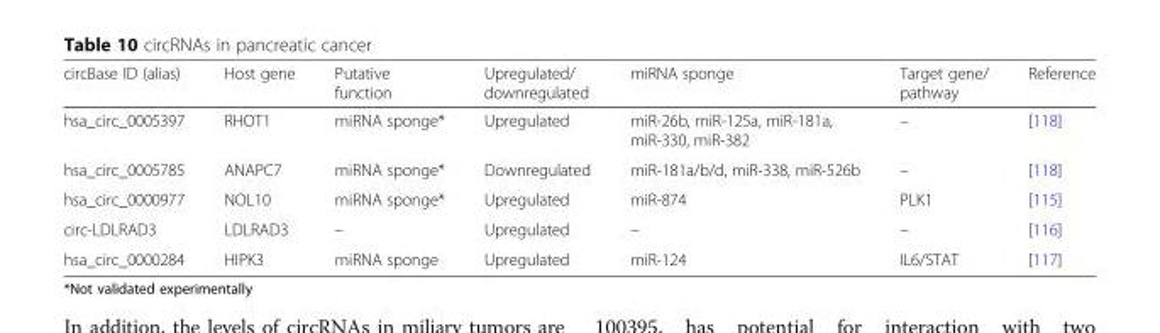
<table><thead><tr><td>circBase ID (alias)</td><td>Host gene</td><td>Putative function</td><td>Upregulated/ downregulated</td><td>miRNA sponge</td><td>Target gene/ pathway</td><td>Reference</td></tr></thead><tbody><tr><td>hsa_circ_0005397</td><td>RHOT1</td><td>miRNA sponge*</td><td>Upregulated</td><td>miR-26b, miR-125a, miR-181a, miR-330, miR-382</td><td>–</td><td>[118]</td></tr><tr><td>hsa_circ_0005785</td><td>ANAPC7</td><td>miRNA sponge*</td><td>Downregulated</td><td>miR-181a/b/d, miR-338, miR-526b</td><td>–</td><td>[118]</td></tr><tr><td>hsa_circ_0000977</td><td>NOL10</td><td>miRNA sponge*</td><td>Upregulated</td><td>miR-874</td><td>PLK1</td><td>[115]</td></tr><tr><td>circ-LDLRAD3</td><td>LDLRAD3</td><td>–</td><td>Upregulated</td><td>–</td><td>–</td><td>[116]</td></tr><tr><td>hsa_circ_0000284</td><td>HIPK3</td><td>miRNA sponge</td><td>Upregulated</td><td>miR-124</td><td>IL6/STAT</td><td>[117]</td></tr></tbody></table>